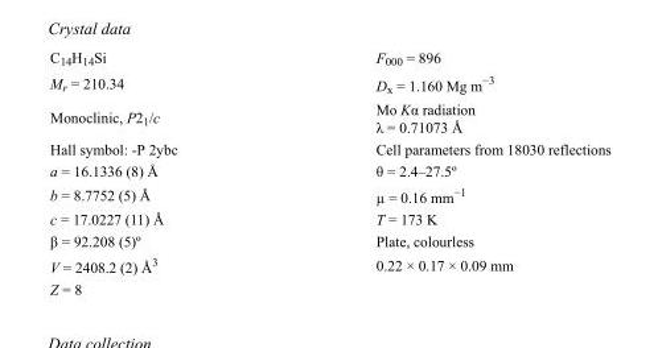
<table><tbody><tr><td>C<sub>14</sub>H<sub>14</sub>Si</td><td>F000 = 896</td></tr><tr><td>M<sub>r</sub> = 210.34</td><td>D<sub>x</sub> = 1.160 Mg m<sup>−3</sup></td></tr><tr><td>Monoclinic, P2<sub>1</sub>/c</td><td>Mo Kα radiation λ = 0.71073 Å</td></tr><tr><td>Hall symbol: -P 2ybc</td><td>Cell parameters from 18030 reflections</td></tr><tr><td>a = 16.1336 (8) Å</td><td>θ = 2.4–27.5º</td></tr><tr><td>b = 8.7752 (5) Å</td><td>µ = 0.16 mm<sup>−1</sup></td></tr><tr><td>c = 17.0227 (11) Å</td><td>T = 173 K</td></tr><tr><td>β = 92.208 (5)º</td><td>Plate, colourless</td></tr><tr><td>V = 2408.2 (2) Å<sup>3</sup></td><td>0.22 × 0.17 × 0.09 mm</td></tr><tr><td>Z = 8</td><td></td></tr></tbody></table>